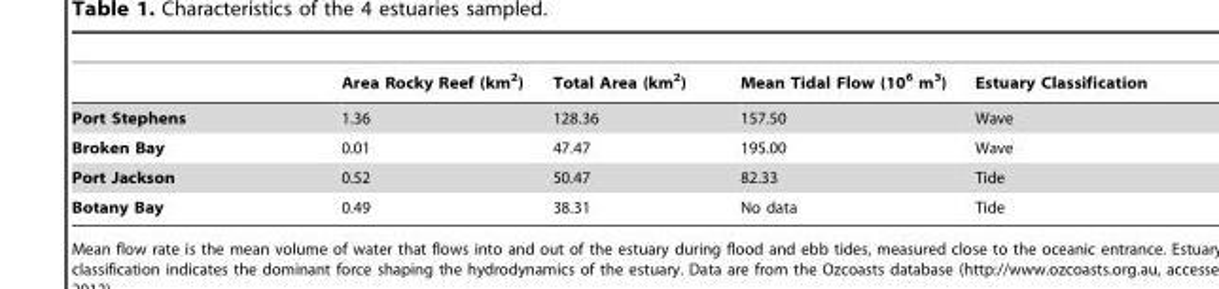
<table><thead><tr><td></td><td>Area Rocky Reef (km<sup>2</sup>)</td><td>Total Area (km<sup>2</sup>)</td><td>Mean Tidal Flow (10<sup>6</sup> m<sup>3</sup>)</td><td>Estuary Classification</td></tr></thead><tbody><tr><td>Port Stephens</td><td>1.36</td><td>128.36</td><td>157.50</td><td>Wave</td></tr><tr><td>Broken Bay</td><td>0.01</td><td>47.47</td><td>195.00</td><td>Wave</td></tr><tr><td>Port Jackson</td><td>0.52</td><td>50.47</td><td>82.33</td><td>Tide</td></tr><tr><td>Botany Bay</td><td>0.49</td><td>38.31</td><td>No data</td><td>Tide</td></tr></tbody></table>